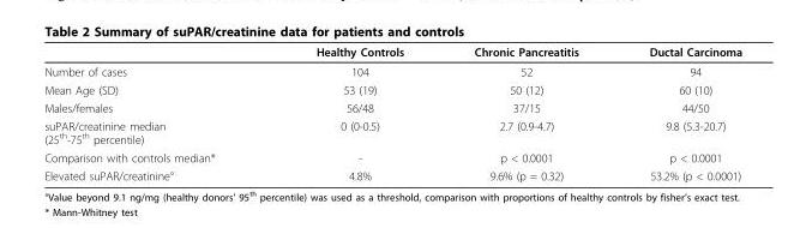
<table><thead><tr><td></td><td>Healthy Controls</td><td>Chronic Pancreatitis</td><td>Ductal Carcinoma</td></tr></thead><tbody><tr><td>Number of cases</td><td>104</td><td>52</td><td>94</td></tr><tr><td>Mean Age (SD)</td><td>53 (19)</td><td>50 (12)</td><td>60 (10)</td></tr><tr><td>Males/females</td><td>56/48</td><td>37/15</td><td>44/50</td></tr><tr><td>suPAR/creatinine median (25<sup>th</sup>-75<sup>th</sup> percentile)</td><td>0 (0-0.5)</td><td>2.7 (0.9-4.7)</td><td>9.8 (5.3-20.7)</td></tr><tr><td>Comparison with controls median*</td><td>-</td><td>p &lt; 0.0001</td><td>p &lt; 0.0001</td></tr><tr><td>Elevated suPAR/creatinine°</td><td>4.8%</td><td>9.6% (p = 0.32)</td><td>53.2% (p &lt; 0.0001)</td></tr></tbody></table>